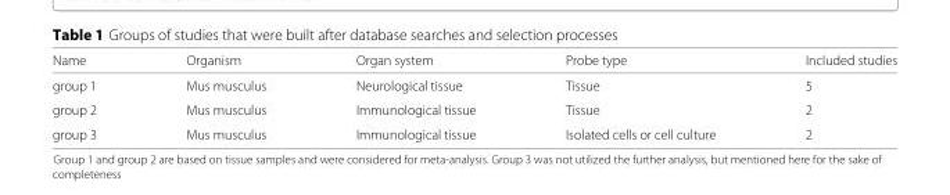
<table><thead><tr><td>Name</td><td>Organism</td><td>Organ system</td><td>Probe type</td><td>Included studies</td></tr></thead><tbody><tr><td>group 1</td><td>Mus musculus</td><td>Neurological tissue</td><td>Tissue</td><td>5</td></tr><tr><td>group 2</td><td>Mus musculus</td><td>Immunological tissue</td><td>Tissue</td><td>2</td></tr><tr><td>group 3</td><td>Mus musculus</td><td>Immunological tissue</td><td>Isolated cells or cell culture</td><td>2</td></tr></tbody></table>